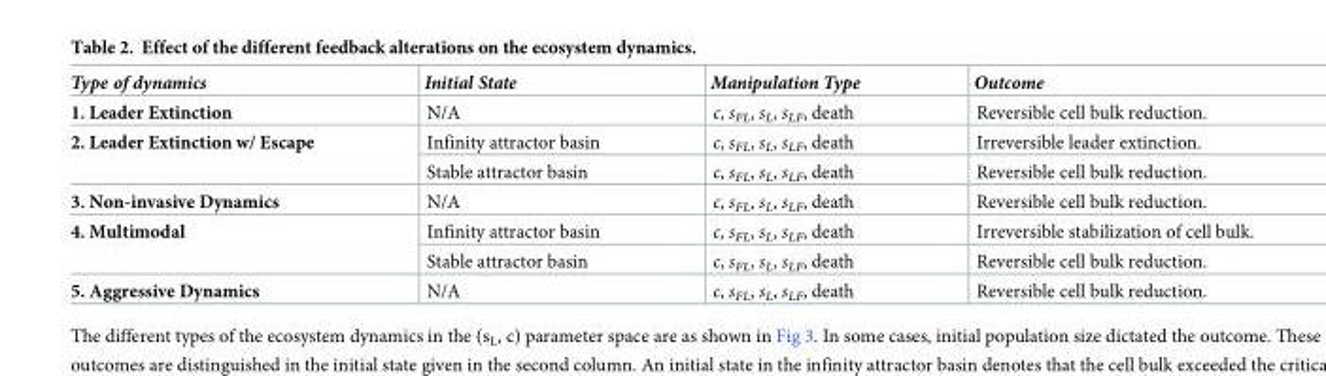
<table><thead><tr><td>Type of dynamics</td><td>Initial State</td><td>Manipulation Type</td><td>Outcome</td></tr></thead><tbody><tr><td>1. Leader Extinction</td><td>N/A</td><td>c, s<sub>FL</sub>, s<sub>L</sub>, s<sub>LF</sub>, death</td><td>Reversible cell bulk reduction.</td></tr><tr><td rowspan="2">2. Leader Extinction w/ Escape</td><td>Infinity attractor basin</td><td>c, s<sub>FL</sub>, s<sub>L</sub>, s<sub>LF</sub>, death</td><td>Irreversible leader extinction.</td></tr><tr><td>Stable attractor basin</td><td>c, s<sub>FL</sub>, s<sub>L</sub>, s<sub>LF</sub>, death</td><td>Reversible cell bulk reduction.</td></tr><tr><td>3. Non-invasive Dynamics</td><td>N/A</td><td>c, s<sub>FL</sub>, s<sub>L</sub>, s<sub>LF</sub>, death</td><td>Reversible cell bulk reduction.</td></tr><tr><td rowspan="2">4. Multimodal</td><td>Infinity attractor basin</td><td>c, s<sub>FL</sub>, s<sub>L</sub>, s<sub>LF</sub>, death</td><td>Irreversible stabilization of cell bulk.</td></tr><tr><td>Stable attractor basin</td><td>c, s<sub>FL</sub>, s<sub>L</sub>, s<sub>LF</sub>, death</td><td>Reversible cell bulk reduction.</td></tr><tr><td>5. Aggressive Dynamics</td><td>N/A</td><td>c, s<sub>FL</sub>, s<sub>L</sub>, s<sub>LF</sub>, death</td><td>Reversible cell bulk reduction.</td></tr></tbody></table>